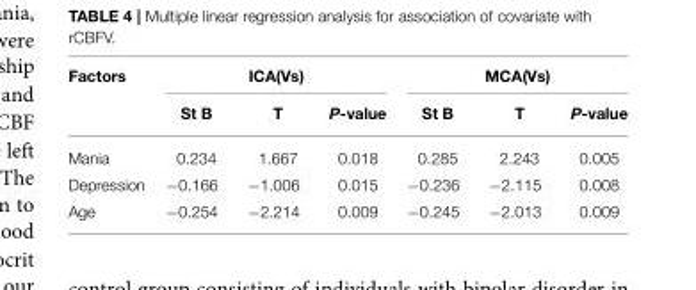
<table><thead><tr><td rowspan="2">Factors</td><td colspan="3">ICA(Vs)</td><td colspan="3">MCA(Vs)</td></tr><tr><td>St B</td><td>T</td><td>P-value</td><td>St B</td><td>T</td><td>P-value</td></tr></thead><tbody><tr><td>Mania</td><td>0.234</td><td>1.667</td><td>0.018</td><td>0.285</td><td>2.243</td><td>0.005</td></tr><tr><td>Depression</td><td>−0.166</td><td>−1.006</td><td>0.015</td><td>−0.236</td><td>−2.115</td><td>0.008</td></tr><tr><td>Age</td><td>−0.254</td><td>−2.214</td><td>0.009</td><td>−0.245</td><td>−2.013</td><td>0.009</td></tr></tbody></table>